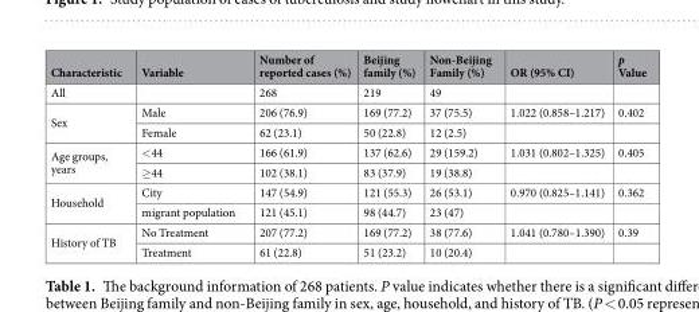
<table><thead><tr><td>Characteristic</td><td>Variable</td><td>Number of reported cases (%)</td><td>Beijing family (%)</td><td>Non-Beijing Family (%)</td><td>OR (95% CI)</td><td>p Value</td></tr></thead><tbody><tr><td>All</td><td></td><td>268</td><td>219</td><td>49</td><td></td><td></td></tr><tr><td rowspan="2">Sex</td><td>Male</td><td>206 (76.9)</td><td>169 (77.2)</td><td>37 (75.5)</td><td>1.022 (0.858–1.217)</td><td>0.402</td></tr><tr><td>Female</td><td>62 (23.1)</td><td>50 (22.8)</td><td>12 (2.5)</td><td></td><td></td></tr><tr><td rowspan="2">Age groups, years</td><td>&lt;44</td><td>166 (61.9)</td><td>137 (62.6)</td><td>29 (159.2)</td><td>1.031 (0.802–1.325)</td><td>0.405</td></tr><tr><td>≥44</td><td>102 (38.1)</td><td>83 (37.9)</td><td>19 (38.8)</td><td></td><td></td></tr><tr><td rowspan="2">Household</td><td>City</td><td>147 (54.9)</td><td>121 (55.3)</td><td>26 (53.1)</td><td>0.970 (0.825–1.141)</td><td>0.362</td></tr><tr><td>migrant population</td><td>121 (45.1)</td><td>98 (44.7)</td><td>23 (47)</td><td></td><td></td></tr><tr><td rowspan="2">History of TB</td><td>No Treatment</td><td>207 (77.2)</td><td>169 (77.2)</td><td>38 (77.6)</td><td>1.041 (0.780–1.390)</td><td>0.39</td></tr><tr><td>Treatment</td><td>61 (22.8)</td><td>51 (23.2)</td><td>10 (20.4)</td><td></td><td></td></tr></tbody></table>